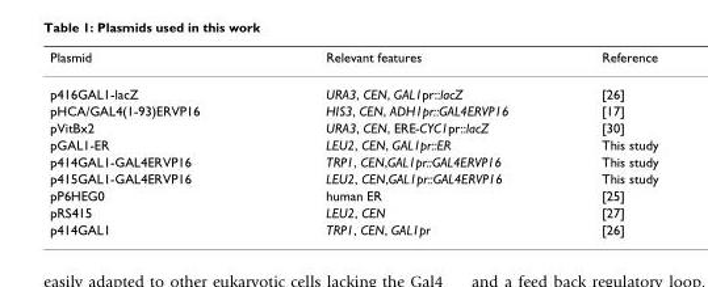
<table><thead><tr><td>Plasmid</td><td>Relevant features</td><td>Reference</td></tr></thead><tbody><tr><td>p416GAL1-lacZ</td><td>URA3, CEN, GAL1pr::lacZ</td><td>[26]</td></tr><tr><td>pHCA/GAL4(1-93)ERVP16</td><td>HIS3, CEN, ADH1pr::GAL4ERVP16</td><td>[17]</td></tr><tr><td>pVitBx2</td><td>URA3, CEN, ERE-CYC1pr::lacZ</td><td>[30]</td></tr><tr><td>pGAL1-ER</td><td>LEU2, CEN, GAL1pr::ER</td><td>This study</td></tr><tr><td>p414GAL1-GAL4ERVP16</td><td>TRP1, CEN,GAL1pr::GAL4ERVP16</td><td>This study</td></tr><tr><td>p415GAL1-GAL4ERVP16</td><td>LEU2, CEN,GAL1pr::GAL4ERVP16</td><td>This study</td></tr><tr><td>pP6HEG0</td><td>human ER</td><td>[25]</td></tr><tr><td>pRS415</td><td>LEU2, CEN</td><td>[27]</td></tr><tr><td>p414GAL1</td><td>TRP1, CEN, GAL1pr</td><td>[26]</td></tr></tbody></table>